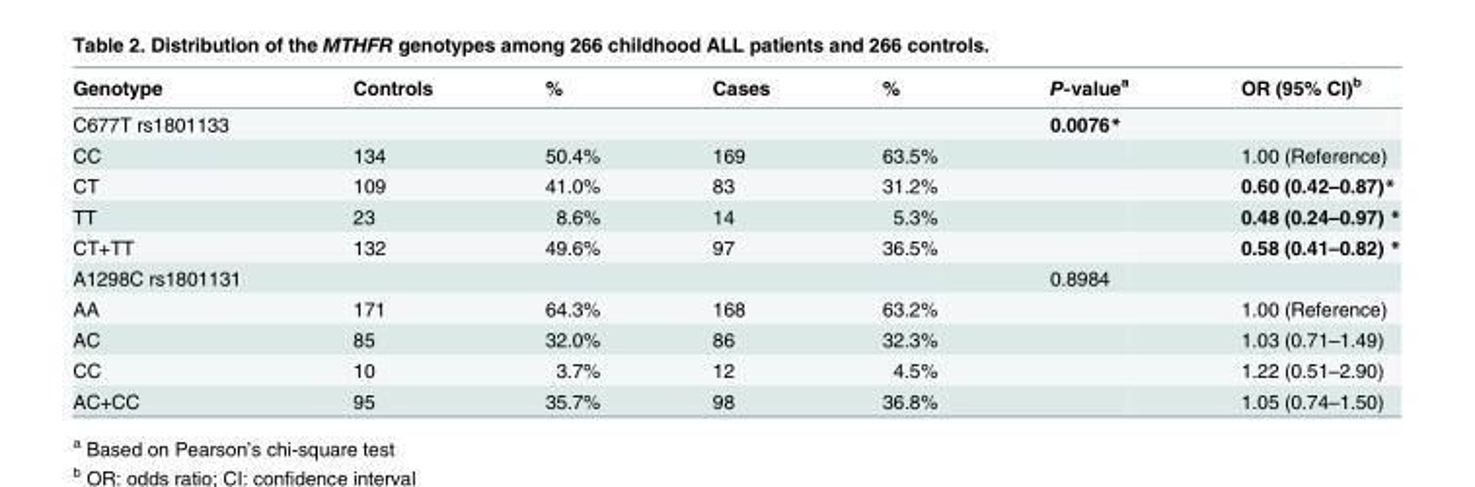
<table><thead><tr><td>Genotype</td><td>Controls</td><td>%</td><td>Cases</td><td>%</td><td>P-value<sup>a</sup></td><td>OR (95% CI)<sup>b</sup></td></tr></thead><tbody><tr><td>C677T rs1801133</td><td></td><td></td><td></td><td></td><td>0.0076*</td><td></td></tr><tr><td>CC</td><td>134</td><td>50.4%</td><td>169</td><td>63.5%</td><td></td><td>1.00 (Reference)</td></tr><tr><td>CT</td><td>109</td><td>41.0%</td><td>83</td><td>31.2%</td><td></td><td>0.60 (0.42–0.87)*</td></tr><tr><td>TT</td><td>23</td><td>8.6%</td><td>14</td><td>5.3%</td><td></td><td>0.48 (0.24–0.97) *</td></tr><tr><td>CT+TT</td><td>132</td><td>49.6%</td><td>97</td><td>36.5%</td><td></td><td>0.58 (0.41–0.82) *</td></tr><tr><td>A1298C rs1801131</td><td></td><td></td><td></td><td></td><td>0.8984</td><td></td></tr><tr><td>AA</td><td>171</td><td>64.3%</td><td>168</td><td>63.2%</td><td></td><td>1.00 (Reference)</td></tr><tr><td>AC</td><td>85</td><td>32.0%</td><td>86</td><td>32.3%</td><td></td><td>1.03 (0.71–1.49)</td></tr><tr><td>CC</td><td>10</td><td>3.7%</td><td>12</td><td>4.5%</td><td></td><td>1.22 (0.51–2.90)</td></tr><tr><td>AC+CC</td><td>95</td><td>35.7%</td><td>98</td><td>36.8%</td><td></td><td>1.05 (0.74–1.50)</td></tr></tbody></table>